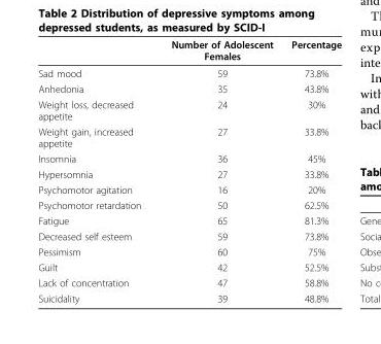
<table><thead><tr><td></td><td>Number of Adolescent Females</td><td>Percentage</td></tr></thead><tbody><tr><td>Sad mood</td><td>59</td><td>73.8%</td></tr><tr><td>Anhedonia</td><td>35</td><td>43.8%</td></tr><tr><td>Weight loss, decreased appetite</td><td>24</td><td>30%</td></tr><tr><td>Weight gain, increased appetite</td><td>27</td><td>33.8%</td></tr><tr><td>Insomnia</td><td>36</td><td>45%</td></tr><tr><td>Hypersomnia</td><td>27</td><td>33.8%</td></tr><tr><td>Psychomotor agitation</td><td>16</td><td>20%</td></tr><tr><td>Psychomotor retardation</td><td>50</td><td>62.5%</td></tr><tr><td>Fatigue</td><td>65</td><td>81.3%</td></tr><tr><td>Decreased self esteem</td><td>59</td><td>73.8%</td></tr><tr><td>Pessimism</td><td>60</td><td>75%</td></tr><tr><td>Guilt</td><td>42</td><td>52.5%</td></tr><tr><td>Lack of concentration</td><td>47</td><td>58.8%</td></tr><tr><td>Suicidality</td><td>39</td><td>48.8%</td></tr></tbody></table>